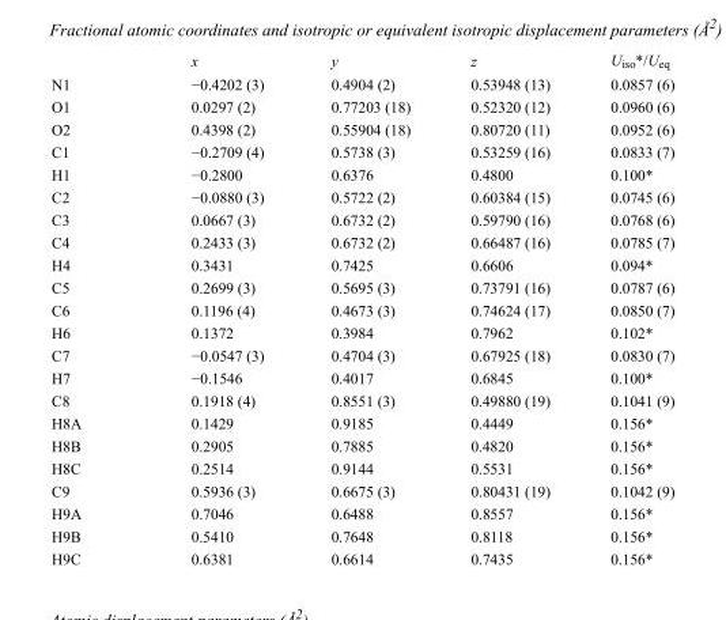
<table><thead><tr><td></td><td>x</td><td>y</td><td>z</td><td>U<sub>iso</sub>*/U<sub>eq</sub></td></tr></thead><tbody><tr><td>N1</td><td>−0.4202 (3)</td><td>0.4904 (2)</td><td>0.53948 (13)</td><td>0.0857 (6)</td></tr><tr><td>O1</td><td>0.0297 (2)</td><td>0.77203 (18)</td><td>0.52320 (12)</td><td>0.0960 (6)</td></tr><tr><td>O2</td><td>0.4398 (2)</td><td>0.55904 (18)</td><td>0.80720 (11)</td><td>0.0952 (6)</td></tr><tr><td>C1</td><td>−0.2709 (4)</td><td>0.5738 (3)</td><td>0.53259 (16)</td><td>0.0833 (7)</td></tr><tr><td>H1</td><td>−0.2800</td><td>0.6376</td><td>0.4800</td><td>0.100*</td></tr><tr><td>C2</td><td>−0.0880 (3)</td><td>0.5722 (2)</td><td>0.60384 (15)</td><td>0.0745 (6)</td></tr><tr><td>C3</td><td>0.0667 (3)</td><td>0.6732 (2)</td><td>0.59790 (16)</td><td>0.0768 (6)</td></tr><tr><td>C4</td><td>0.2433 (3)</td><td>0.6732 (2)</td><td>0.66487 (16)</td><td>0.0785 (7)</td></tr><tr><td>H4</td><td>0.3431</td><td>0.7425</td><td>0.6606</td><td>0.094*</td></tr><tr><td>C5</td><td>0.2699 (3)</td><td>0.5695 (3)</td><td>0.73791 (16)</td><td>0.0787 (6)</td></tr><tr><td>C6</td><td>0.1196 (4)</td><td>0.4673 (3)</td><td>0.74624 (17)</td><td>0.0850 (7)</td></tr><tr><td>H6</td><td>0.1372</td><td>0.3984</td><td>0.7962</td><td>0.102*</td></tr><tr><td>C7</td><td>−0.0547 (3)</td><td>0.4704 (3)</td><td>0.67925 (18)</td><td>0.0830 (7)</td></tr><tr><td>H7</td><td>−0.1546</td><td>0.4017</td><td>0.6845</td><td>0.100*</td></tr><tr><td>C8</td><td>0.1918 (4)</td><td>0.8551 (3)</td><td>0.49880 (19)</td><td>0.1041 (9)</td></tr><tr><td>H8A</td><td>0.1429</td><td>0.9185</td><td>0.4449</td><td>0.156*</td></tr><tr><td>H8B</td><td>0.2905</td><td>0.7885</td><td>0.4820</td><td>0.156*</td></tr><tr><td>H8C</td><td>0.2514</td><td>0.9144</td><td>0.5531</td><td>0.156*</td></tr><tr><td>C9</td><td>0.5936 (3)</td><td>0.6675 (3)</td><td>0.80431 (19)</td><td>0.1042 (9)</td></tr><tr><td>H9A</td><td>0.7046</td><td>0.6488</td><td>0.8557</td><td>0.156*</td></tr><tr><td>H9B</td><td>0.5410</td><td>0.7648</td><td>0.8118</td><td>0.156*</td></tr><tr><td>H9C</td><td>0.6381</td><td>0.6614</td><td>0.7435</td><td>0.156*</td></tr></tbody></table>